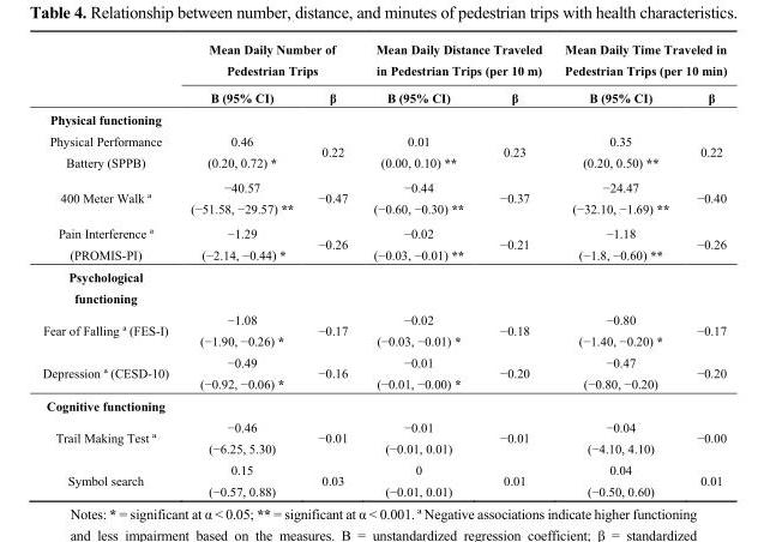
<table><thead><tr><td rowspan="2"></td><td colspan="2">Mean Daily Number of Pedestrian Trips</td><td colspan="2">Mean Daily Distance Traveled in Pedestrian Trips (per 10 m)</td><td colspan="2">Mean Daily Time Traveled in Pedestrian Trips (per 10 min)</td></tr><tr><td>B (95% CI)</td><td>β</td><td>B (95% CI)</td><td>β</td><td>B (95% CI)</td><td>β</td></tr></thead><tbody><tr><td colspan="7">Physical functioning</td></tr><tr><td>Physical Performance Battery (SPPB)</td><td>0.46 (0.20, 0.72) *</td><td>0.22</td><td>0.01 (0.00, 0.10) **</td><td>0.23</td><td>0.35 (0.20, 0.50) **</td><td>0.22</td></tr><tr><td>400 Meter Walk ª</td><td>−40.57 (−51.58, −29.57) **</td><td>−0.47</td><td>−0.44 (−0.60, −0.30) **</td><td>−0.37</td><td>−24.47 (−32.10, −1.69) **</td><td>−0.40</td></tr><tr><td>Pain Interference ª (PROMIS-PI)</td><td>−1.29 (−2.14, −0.44) *</td><td>−0.26</td><td>−0.02 (−0.03, −0.01) **</td><td>−0.21</td><td>−1.18 (−1.8, −0.60) **</td><td>−0.26</td></tr><tr><td colspan="7">Psychological functioning</td></tr><tr><td>Fear of Falling ª (FES-I)</td><td>−1.08 (−1.90, −0.26) *</td><td>−0.17</td><td>−0.02 (−0.03, −0.01) *</td><td>−0.18</td><td>−0.80 (−1.40, −0.20) *</td><td>−0.17</td></tr><tr><td>Depression ª (CESD-10)</td><td>−0.49 (−0.92, −0.06) *</td><td>−0.16</td><td>−0.01 (−0.01, −0.00) *</td><td>−0.20</td><td>−0.47 (−0.80, −0.20)</td><td>−0.20</td></tr><tr><td colspan="7">Cognitive functioning</td></tr><tr><td>Trail Making Test ª</td><td>−0.46 (−6.25, 5.30)</td><td>−0.01</td><td>−0.01 (−0.01, 0.01)</td><td>−0.01</td><td>−0.04 (−4.10, 4.10)</td><td>−0.00</td></tr><tr><td>Symbol search</td><td>0.15 (−0.57, 0.88)</td><td>0.03</td><td>0 (−0.01, 0.01)</td><td>0.01</td><td>0.04 (−0.50, 0.60)</td><td>0.01</td></tr></tbody></table>